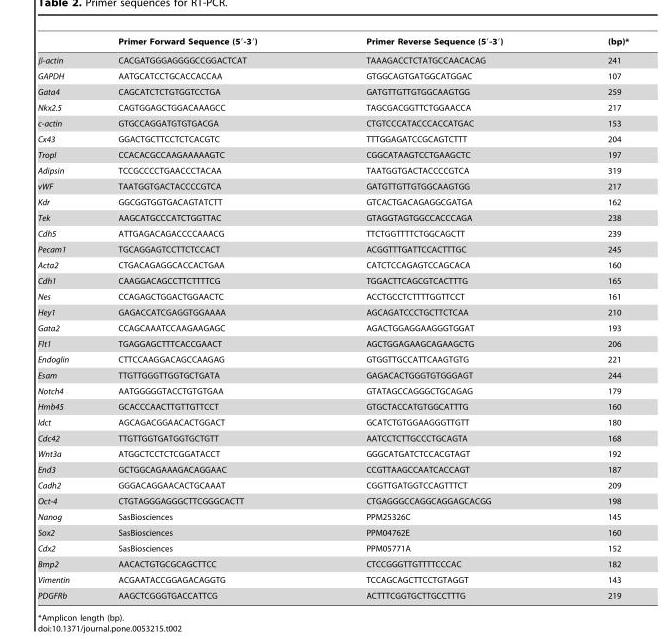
<table><thead><tr><td></td><td>Primer Forward Sequence (5′-3′)</td><td>Primer Reverse Sequence (5′-3′)</td><td>(bp)*</td></tr></thead><tbody><tr><td>β-actin</td><td>CACGATGGGAGGGGCCGGACTCAT</td><td>TAAAGACCTCTATGCCAACACAG</td><td>241</td></tr><tr><td>GAPDH</td><td>AATGCATCCTGCACCACCAA</td><td>GTGGCAGTGATGGCATGGAC</td><td>107</td></tr><tr><td>Gata4</td><td>CAGCATCTCTGTGGTCCTGA</td><td>GATGTTGTTGTGGCAAGTGG</td><td>259</td></tr><tr><td>Nkx2.5</td><td>CAGTGGAGCTGGACAAAGCC</td><td>TAGCGACGGTTCTGGAACCA</td><td>217</td></tr><tr><td>c-actin</td><td>GTGCCAGGATGTGTGACGA</td><td>CTGTCCCATACCCACCATGAC</td><td>153</td></tr><tr><td>Cx43</td><td>GGACTGCTTCCTCTCACGTC</td><td>TTTGGAGATCCGCAGTCTTT</td><td>204</td></tr><tr><td>TropI</td><td>CCACACGCCAAGAAAAAGTC</td><td>CGGCATAAGTCCTGAAGCTC</td><td>197</td></tr><tr><td>Adipsin</td><td>TCCGCCCCTGAACCCTACAA</td><td>TAATGGTGACTACCCCGTCA</td><td>319</td></tr><tr><td>vWF</td><td>TAATGGTGACTACCCCGTCA</td><td>GATGTTGTTGTGGCAAGTGG</td><td>217</td></tr><tr><td>Kdr</td><td>GGCGGTGGTGACAGTATCTT</td><td>GTCACTGACAGAGGCGATGA</td><td>162</td></tr><tr><td>Tek</td><td>AAGCATGCCCATCTGGTTAC</td><td>GTAGGTAGTGGCCACCCAGA</td><td>238</td></tr><tr><td>Cdh5</td><td>ATTGAGACAGACCCCAAACG</td><td>TTCTGGTTTTCTGGCAGCTT</td><td>239</td></tr><tr><td>Pecam1</td><td>TGCAGGAGTCCTTCTCCACT</td><td>ACGGTTTGATTCCACTTTGC</td><td>245</td></tr><tr><td>Acta2</td><td>CTGACAGAGGCACCACTGAA</td><td>CATCTCCAGAGTCCAGCACA</td><td>160</td></tr><tr><td>Cdh1</td><td>CAAGGACAGCCTTCTTTTCG</td><td>TGGACTTCAGCGTCACTTTG</td><td>165</td></tr><tr><td>Nes</td><td>CCAGAGCTGGACTGGAACTC</td><td>ACCTGCCTCTTTTGGTTCCT</td><td>161</td></tr><tr><td>Hey1</td><td>GAGACCATCGAGGTGGAAAA</td><td>AGCAGATCCCTGCTTCTCAA</td><td>210</td></tr><tr><td>Gata2</td><td>CCAGCAAATCCAAGAAGAGC</td><td>AGACTGGAGGAAGGGTGGAT</td><td>193</td></tr><tr><td>Flt1</td><td>TGAGGAGCTTTCACCGAACT</td><td>AGCTGGAGAAGCAGAAGCTG</td><td>206</td></tr><tr><td>Endoglin</td><td>CTTCCAAGGACAGCCAAGAG</td><td>GTGGTTGCCATTCAAGTGTG</td><td>221</td></tr><tr><td>Esam</td><td>TTGTTGGGTTGGTGCTGATA</td><td>GAGACACTGGGTGTGGGAGT</td><td>244</td></tr><tr><td>Notch4</td><td>AATGGGGGTACCTGTGTGAA</td><td>GTATAGCCAGGGCTGCAGAG</td><td>179</td></tr><tr><td>Hmb45</td><td>GCACCCAACTTGTTGTTCCT</td><td>GTGCTACCATGTGGCATTTG</td><td>160</td></tr><tr><td>Idct</td><td>AGCAGACGGAACACTGGACT</td><td>GCATCTGTGGAAGGGTTGTT</td><td>180</td></tr><tr><td>Cdc42</td><td>TTGTTGGTGATGGTGCTGTT</td><td>AATCCTCTTGCCCTGCAGTA</td><td>168</td></tr><tr><td>Wnt3a</td><td>ATGGCTCCTCTCGGATACCT</td><td>GGGCATGATCTCCACGTAGT</td><td>192</td></tr><tr><td>End3</td><td>GCTGGCAGAAAGACAGGAAC</td><td>CCGTTAAGCCAATCACCAGT</td><td>187</td></tr><tr><td>Cadh2</td><td>GGGACAGGAACACTGCAAAT</td><td>CGGTTGATGGTCCAGTTTCT</td><td>209</td></tr><tr><td>Oct-4</td><td>CTGTAGGGAGGGCTTCGGGCACTT</td><td>CTGAGGGCCAGGCAGGAGCACGG</td><td>198</td></tr><tr><td>Nanog</td><td>SasBiosciences</td><td>PPM25326C</td><td>145</td></tr><tr><td>Sox2</td><td>SasBiosciences</td><td>PPM04762E</td><td>160</td></tr><tr><td>Cdx2</td><td>SasBiosciences</td><td>PPM05771A</td><td>152</td></tr><tr><td>Bmp2</td><td>AACACTGTGCGCAGCTTCC</td><td>CTCCGGGTTGTTTTCCCAC</td><td>182</td></tr><tr><td>Vimentin</td><td>ACGAATACCGGAGACAGGTG</td><td>TCCAGCAGCTTCCTGTAGGT</td><td>143</td></tr><tr><td>PDGFRb</td><td>AAGCTCGGGTGACCATTCG</td><td>ACTTTCGGTGCTTGCCTTTG</td><td>219</td></tr></tbody></table>